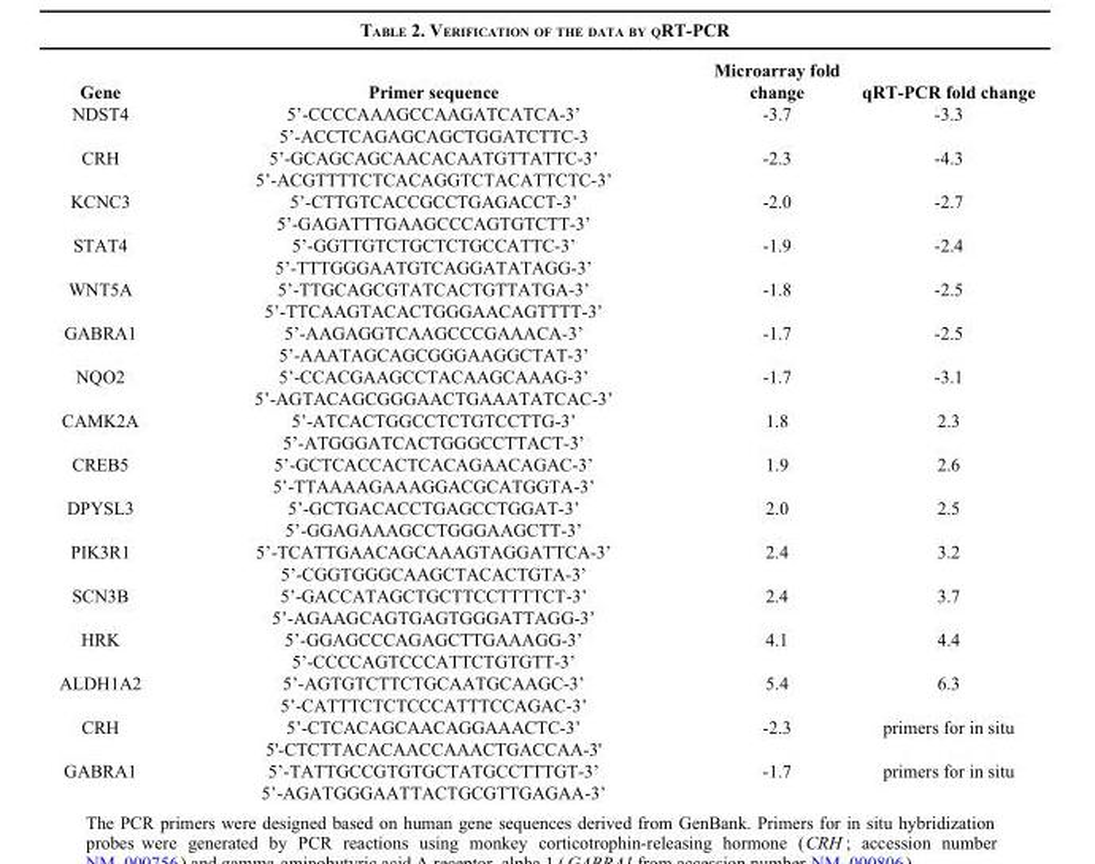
<table><thead><tr><td>Gene</td><td>Primer sequence</td><td>Microarray fold change</td><td>qRT-PCR fold change</td></tr></thead><tbody><tr><td rowspan="2">NDST4</td><td>5’-CCCCAAAGCCAAGATCATCA-3’</td><td>-3.7</td><td>-3.3</td></tr><tr><td>5’-ACCTCAGAGCAGCTGGATCTTC-3</td><td></td><td></td></tr><tr><td rowspan="2">CRH</td><td>5’-GCAGCAGCAACACAATGTTATTC-3’</td><td>-2.3</td><td>-4.3</td></tr><tr><td>5’-ACGTTTTCTCACAGGTCTACATTCTC-3’</td><td></td><td></td></tr><tr><td rowspan="2">KCNC3</td><td>5’-CTTGTCACCGCCTGAGACCT-3’</td><td>-2.0</td><td>-2.7</td></tr><tr><td>5’-GAGATTTGAAGCCCAGTGTCTT-3’</td><td></td><td></td></tr><tr><td rowspan="2">STAT4</td><td>5’-GGTTGTCTGCTCTGCCATTC-3’</td><td>-1.9</td><td>-2.4</td></tr><tr><td>5’-TTTGGGAATGTCAGGATATAGG-3’</td><td></td><td></td></tr><tr><td rowspan="2">WNT5A</td><td>5’-TTGCAGCGTATCACTGTTATGA-3’</td><td>-1.8</td><td>-2.5</td></tr><tr><td>5’-TTCAAGTACACTGGGAACAGTTTT-3’</td><td></td><td></td></tr><tr><td rowspan="2">GABRA1</td><td>5’-AAGAGGTCAAGCCCGAAACA-3’</td><td>-1.7</td><td>-2.5</td></tr><tr><td>5’-AAATAGCAGCGGGAAGGCTAT-3’</td><td></td><td></td></tr><tr><td rowspan="2">NQO2</td><td>5’-CCACGAAGCCTACAAGCAAAG-3’</td><td>-1.7</td><td>-3.1</td></tr><tr><td>5’-AGTACAGCGGGAACTGAAATATCAC-3’</td><td></td><td></td></tr><tr><td rowspan="2">CAMK2A</td><td>5’-ATCACTGGCCTCTGTCCTTG-3’</td><td>1.8</td><td>2.3</td></tr><tr><td>5’-ATGGGATCACTGGGCCTTACT-3’</td><td></td><td></td></tr><tr><td rowspan="2">CREB5</td><td>5’-GCTCACCACTCACAGAACAGAC-3’</td><td>1.9</td><td>2.6</td></tr><tr><td>5’-TTAAAAGAAAGGACGCATGGTA-3’</td><td></td><td></td></tr><tr><td rowspan="2">DPYSL3</td><td>5’-GCTGACACCTGAGCCTGGAT-3’</td><td>2.0</td><td>2.5</td></tr><tr><td>5’-GGAGAAAGCCTGGGAAGCTT-3’</td><td></td><td></td></tr><tr><td rowspan="2">PIK3R1</td><td>5’-TCATTGAACAGCAAAGTAGGATTCA-3’</td><td>2.4</td><td>3.2</td></tr><tr><td>5’-CGGTGGGCAAGCTACACTGTA-3’</td><td></td><td></td></tr><tr><td rowspan="2">SCN3B</td><td>5’-GACCATAGCTGCTTCCTTTTCT-3’</td><td>2.4</td><td>3.7</td></tr><tr><td>5’-AGAAGCAGTGAGTGGGATTAGG-3’</td><td></td><td></td></tr><tr><td rowspan="2">HRK</td><td>5’-GGAGCCCAGAGCTTGAAAGG-3’</td><td>4.1</td><td>4.4</td></tr><tr><td>5’-CCCCAGTCCCATTCTGTGTT-3’</td><td></td><td></td></tr><tr><td rowspan="2">ALDH1A2</td><td>5’-AGTGTCTTCTGCAATGCAAGC-3’</td><td>5.4</td><td>6.3</td></tr><tr><td>5’-CATTTCTCTCCCATTTCCAGAC-3’</td><td></td><td></td></tr><tr><td rowspan="2">CRH</td><td>5’-CTCACAGCAACAGGAAACTC-3’</td><td>-2.3</td><td>primers for in situ</td></tr><tr><td>5&#x27;-CTCTTACACAACCAAACTGACCAA-3&#x27;</td><td></td><td></td></tr><tr><td rowspan="2">GABRA1</td><td>5’-TATTGCCGTGTGCTATGCCTTTGT-3’</td><td>-1.7</td><td>primers for in situ</td></tr><tr><td>5’-AGATGGGAATTACTGCGTTGAGAA-3’</td><td></td><td></td></tr></tbody></table>